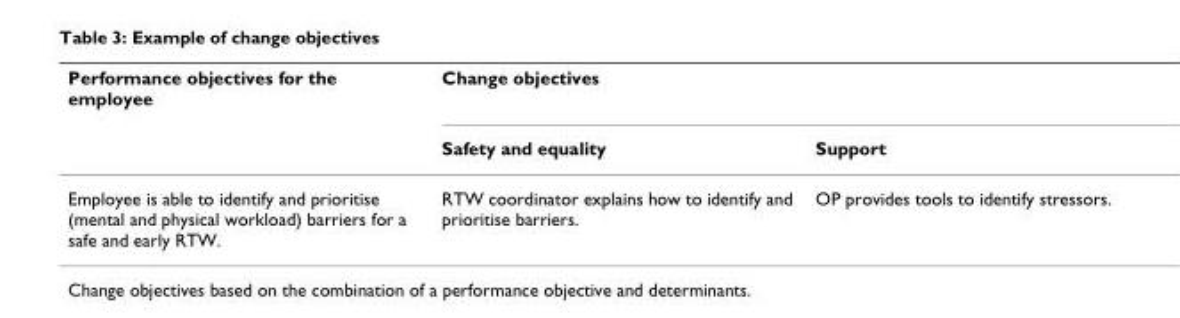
<table><thead><tr><td rowspan="2">Performance objectives for the employee</td><td colspan="2">Change objectives</td></tr><tr><td>Safety and equality</td><td>Support</td></tr></thead><tbody><tr><td>Employee is able to identify and prioritise (mental and physical workload) barriers for a safe and early RTW.</td><td>RTW coordinator explains how to identify and prioritise barriers.</td><td>OP provides tools to identify stressors.</td></tr></tbody></table>